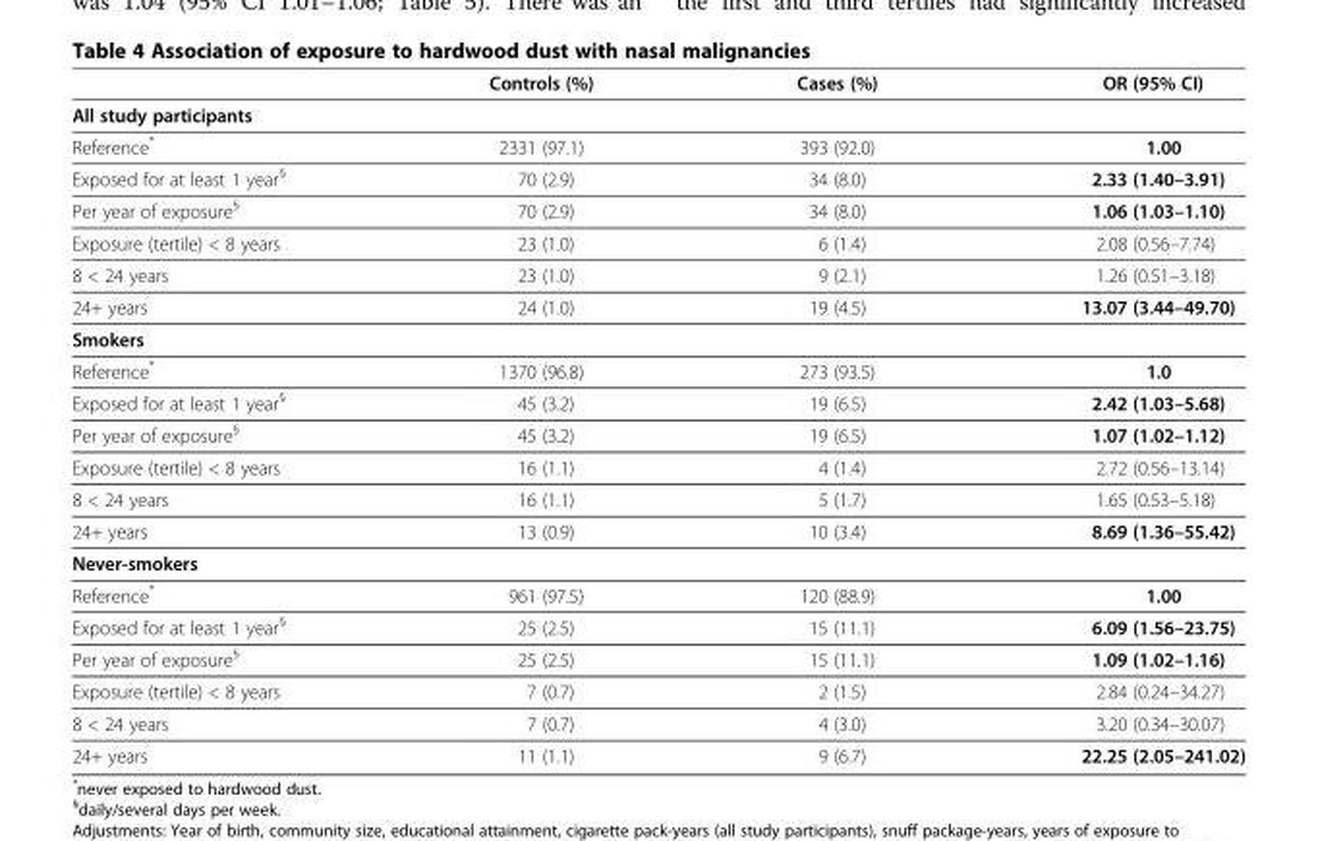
<table><thead><tr><td></td><td>Controls (%)</td><td>Cases (%)</td><td>OR (95% CI)</td></tr></thead><tbody><tr><td colspan="4">All study participants</td></tr><tr><td>Reference*</td><td>2331 (97.1)</td><td>393 (92.0)</td><td>1.00</td></tr><tr><td>Exposed for at least 1 year<sup>§</sup></td><td>70 (2.9)</td><td>34 (8.0)</td><td>2.33 (1.40–3.91)</td></tr><tr><td>Per year of exposure<sup>§</sup></td><td>70 (2.9)</td><td>34 (8.0)</td><td>1.06 (1.03–1.10)</td></tr><tr><td>Exposure (tertile) &lt; 8 years</td><td>23 (1.0)</td><td>6 (1.4)</td><td>2.08 (0.56–7.74)</td></tr><tr><td>8 &lt; 24 years</td><td>23 (1.0)</td><td>9 (2.1)</td><td>1.26 (0.51–3.18)</td></tr><tr><td>24+ years</td><td>24 (1.0)</td><td>19 (4.5)</td><td>13.07 (3.44–49.70)</td></tr><tr><td colspan="4">Smokers</td></tr><tr><td>Reference*</td><td>1370 (96.8)</td><td>273 (93.5)</td><td>1.0</td></tr><tr><td>Exposed for at least 1 year<sup>§</sup></td><td>45 (3.2)</td><td>19 (6.5)</td><td>2.42 (1.03–5.68)</td></tr><tr><td>Per year of exposure<sup>§</sup></td><td>45 (3.2)</td><td>19 (6.5)</td><td>1.07 (1.02–1.12)</td></tr><tr><td>Exposure (tertile) &lt; 8 years</td><td>16 (1.1)</td><td>4 (1.4)</td><td>2.72 (0.56–13.14)</td></tr><tr><td>8 &lt; 24 years</td><td>16 (1.1)</td><td>5 (1.7)</td><td>1.65 (0.53–5.18)</td></tr><tr><td>24+ years</td><td>13 (0.9)</td><td>10 (3.4)</td><td>8.69 (1.36–55.42)</td></tr><tr><td colspan="4">Never-smokers</td></tr><tr><td>Reference*</td><td>961 (97.5)</td><td>120 (88.9)</td><td>1.00</td></tr><tr><td>Exposed for at least 1 year<sup>§</sup></td><td>25 (2.5)</td><td>15 (11.1)</td><td>6.09 (1.56–23.75)</td></tr><tr><td>Per year of exposure<sup>§</sup></td><td>25 (2.5)</td><td>15 (11.1)</td><td>1.09 (1.02–1.16)</td></tr><tr><td>Exposure (tertile) &lt; 8 years</td><td>7 (0.7)</td><td>2 (1.5)</td><td>2.84 (0.24–34.27)</td></tr><tr><td>8 &lt; 24 years</td><td>7 (0.7)</td><td>4 (3.0)</td><td>3.20 (0.34–30.07)</td></tr><tr><td>24+ years</td><td>11 (1.1)</td><td>9 (6.7)</td><td>22.25 (2.05–241.02)</td></tr></tbody></table>